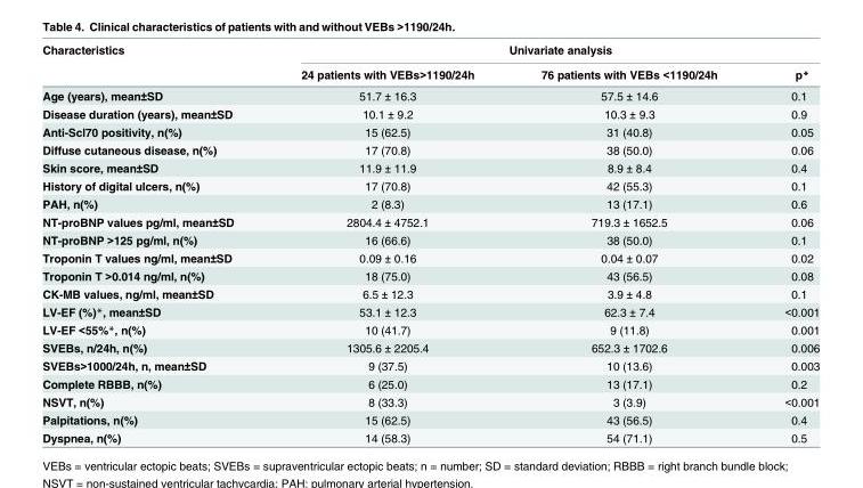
<table><thead><tr><td rowspan="2">Characteristics</td><td colspan="3">Univariate analysis</td></tr><tr><td>24 patients with VEBs&gt;1190/24h</td><td>76 patients with VEBs &lt;1190/24h</td><td>p*</td></tr></thead><tbody><tr><td>Age (years), mean±SD</td><td>51.7 ± 16.3</td><td>57.5 ± 14.6</td><td>0.1</td></tr><tr><td>Disease duration (years), mean±SD</td><td>10.1 ± 9.2</td><td>10.3 ± 9.3</td><td>0.9</td></tr><tr><td>Anti-Scl70 positivity, n(%)</td><td>15 (62.5)</td><td>31 (40.8)</td><td>0.05</td></tr><tr><td>Diffuse cutaneous disease, n(%)</td><td>17 (70.8)</td><td>38 (50.0)</td><td>0.06</td></tr><tr><td>Skin score, mean±SD</td><td>11.9 ± 11.9</td><td>8.9 ± 8.4</td><td>0.4</td></tr><tr><td>History of digital ulcers, n(%)</td><td>17 (70.8)</td><td>42 (55.3)</td><td>0.1</td></tr><tr><td>PAH, n(%)</td><td>2 (8.3)</td><td>13 (17.1)</td><td>0.6</td></tr><tr><td>NT-proBNP values pg/ml, mean±SD</td><td>2804.4 ± 4752.1</td><td>719.3 ± 1652.5</td><td>0.06</td></tr><tr><td>NT-proBNP &gt;125 pg/ml, n(%)</td><td>16 (66.6)</td><td>38 (50.0)</td><td>0.1</td></tr><tr><td>Troponin T values ng/ml, mean±SD</td><td>0.09 ± 0.16</td><td>0.04 ± 0.07</td><td>0.02</td></tr><tr><td>Troponin T &gt;0.014 ng/ml, n(%)</td><td>18 (75.0)</td><td>43 (56.5)</td><td>0.08</td></tr><tr><td>CK-MB values, ng/ml, mean±SD</td><td>6.5 ± 12.3</td><td>3.9 ± 4.8</td><td>0.1</td></tr><tr><td>LV-EF (%)*, mean±SD</td><td>53.1 ± 12.3</td><td>62.3 ± 7.4</td><td>&lt;0.001</td></tr><tr><td>LV-EF &lt;55%*, n(%)</td><td>10 (41.7)</td><td>9 (11.8)</td><td>0.001</td></tr><tr><td>SVEBs, n/24h, n(%)</td><td>1305.6 ± 2205.4</td><td>652.3 ± 1702.6</td><td>0.006</td></tr><tr><td>SVEBs&gt;1000/24h, n, mean±SD</td><td>9 (37.5)</td><td>10 (13.6)</td><td>0.003</td></tr><tr><td>Complete RBBB, n(%)</td><td>6 (25.0)</td><td>13 (17.1)</td><td>0.2</td></tr><tr><td>NSVT, n(%)</td><td>8 (33.3)</td><td>3 (3.9)</td><td>&lt;0.001</td></tr><tr><td>Palpitations, n(%)</td><td>15 (62.5)</td><td>43 (56.5)</td><td>0.4</td></tr><tr><td>Dyspnea, n(%)</td><td>14 (58.3)</td><td>54 (71.1)</td><td>0.5</td></tr></tbody></table>